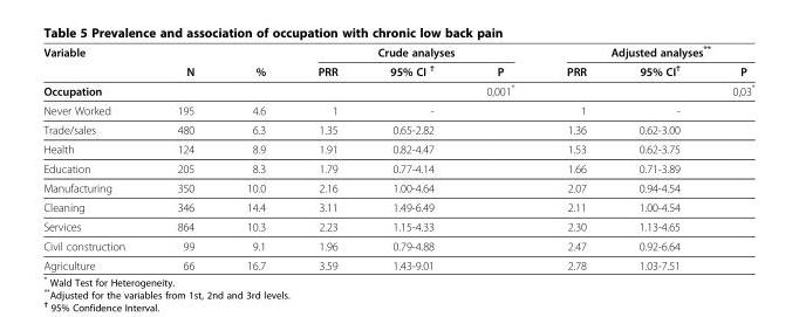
<table><thead><tr><td rowspan="2">Variable</td><td rowspan="2">N</td><td rowspan="2">%</td><td colspan="3">Crude analyses</td><td rowspan="2">PRR</td><td colspan="2">Adjusted analyses**</td></tr><tr><td>PRR</td><td>95% CI <sup>†</sup></td><td>P</td><td>95% CI<sup>†</sup></td><td>P</td></tr></thead><tbody><tr><td>Occupation</td><td></td><td></td><td></td><td></td><td>0,001*</td><td></td><td></td><td>0,03*</td></tr><tr><td>Never Worked</td><td>195</td><td>4.6</td><td>1</td><td>-</td><td></td><td>1</td><td>-</td><td></td></tr><tr><td>Trade/sales</td><td>480</td><td>6.3</td><td>1.35</td><td>0.65-2.82</td><td></td><td>1.36</td><td>0.62-3.00</td><td></td></tr><tr><td>Health</td><td>124</td><td>8.9</td><td>1.91</td><td>0.82-4.47</td><td></td><td>1.53</td><td>0.62-3.75</td><td></td></tr><tr><td>Education</td><td>205</td><td>8.3</td><td>1.79</td><td>0.77-4.14</td><td></td><td>1.66</td><td>0.71-3.89</td><td></td></tr><tr><td>Manufacturing</td><td>350</td><td>10.0</td><td>2.16</td><td>1.00-4.64</td><td></td><td>2.07</td><td>0.94-4.54</td><td></td></tr><tr><td>Cleaning</td><td>346</td><td>14.4</td><td>3.11</td><td>1.49-6.49</td><td></td><td>2.11</td><td>1.00-4.54</td><td></td></tr><tr><td>Services</td><td>864</td><td>10.3</td><td>2.23</td><td>1.15-4.33</td><td></td><td>2.30</td><td>1.13-4.65</td><td></td></tr><tr><td>Civil construction</td><td>99</td><td>9.1</td><td>1.96</td><td>0.79-4.88</td><td></td><td>2.47</td><td>0.92-6.64</td><td></td></tr><tr><td>Agriculture</td><td>66</td><td>16.7</td><td>3.59</td><td>1.43-9.01</td><td></td><td>2.78</td><td>1.03-7.51</td><td></td></tr></tbody></table>